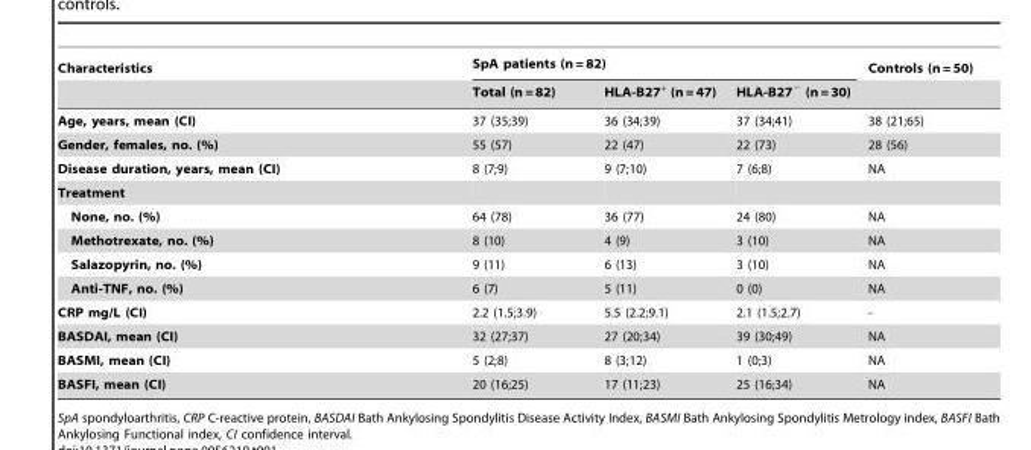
<table><thead><tr><td rowspan="2">Characteristics</td><td colspan="3">SpA patients (n = 82)</td><td rowspan="2">Controls (n = 50)</td></tr><tr><td>Total (n = 82)</td><td>HLA-B27<sup>+</sup> (n = 47)</td><td>HLA-B27<sup>−</sup> (n = 30)</td></tr></thead><tbody><tr><td>Age, years, mean (CI)</td><td>37 (35;39)</td><td>36 (34;39)</td><td>37 (34;41)</td><td>38 (21;65)</td></tr><tr><td>Gender, females, no. (%)</td><td>55 (57)</td><td>22 (47)</td><td>22 (73)</td><td>28 (56)</td></tr><tr><td>Disease duration, years, mean (CI)</td><td>8 (7;9)</td><td>9 (7;10)</td><td>7 (6;8)</td><td>NA</td></tr><tr><td colspan="5">Treatment</td></tr><tr><td>None, no. (%)</td><td>64 (78)</td><td>36 (77)</td><td>24 (80)</td><td>NA</td></tr><tr><td>Methotrexate, no. (%)</td><td>8 (10)</td><td>4 (9)</td><td>3 (10)</td><td>NA</td></tr><tr><td>Salazopyrin, no. (%)</td><td>9 (11)</td><td>6 (13)</td><td>3 (10)</td><td>NA</td></tr><tr><td>Anti-TNF, no. (%)</td><td>6 (7)</td><td>5 (11)</td><td>0 (0)</td><td>NA</td></tr><tr><td>CRP mg/L (CI)</td><td>2.2 (1.5;3.9)</td><td>5.5 (2.2;9.1)</td><td>2.1 (1.5;2.7)</td><td>-</td></tr><tr><td>BASDAI, mean (CI)</td><td>32 (27;37)</td><td>27 (20;34)</td><td>39 (30;49)</td><td>NA</td></tr><tr><td>BASMI, mean (CI)</td><td>5 (2;8)</td><td>8 (3;12)</td><td>1 (0;3)</td><td>NA</td></tr><tr><td>BASFI, mean (CI)</td><td>20 (16;25)</td><td>17 (11;23)</td><td>25 (16;34)</td><td>NA</td></tr></tbody></table>